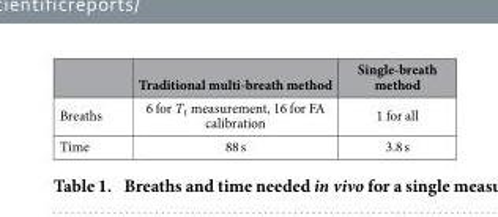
<table><thead><tr><td></td><td>Traditional multi-breath method</td><td>Single-breath method</td></tr></thead><tbody><tr><td>Breaths</td><td>6 for T<sub>1</sub> measurement, 16 for FA calibration</td><td>1 for all</td></tr><tr><td>Time</td><td>88 s</td><td>3.8 s</td></tr></tbody></table>